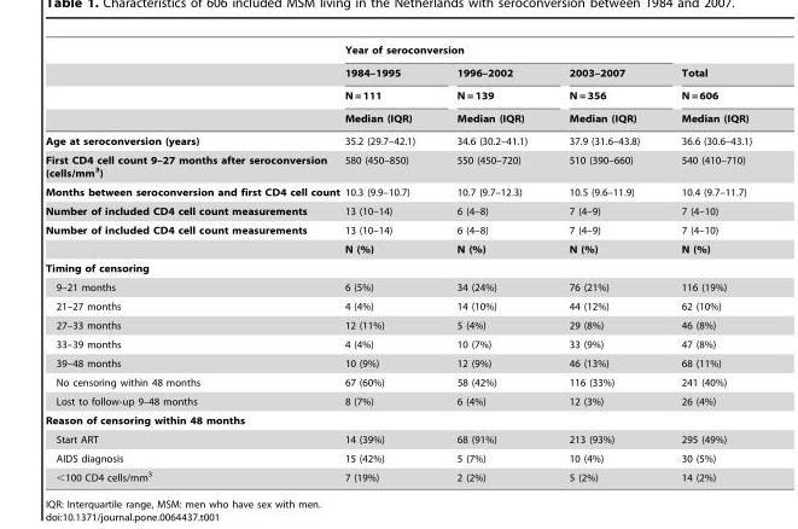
<table><thead><tr><td rowspan="4"></td><td colspan="3">Year of seroconversion</td><td rowspan="4">Total N = 606 Median (IQR)</td></tr><tr><td rowspan="3">1984–1995 N = 111 Median (IQR)</td><td rowspan="3">1996–2002 N = 139 Median (IQR)</td><td rowspan="3">2003–2007 N = 356 Median (IQR)</td></tr><tr></tr><tr></tr></thead><tbody><tr><td>Age at seroconversion (years)</td><td>35.2 (29.7–42.1)</td><td>34.6 (30.2–41.1)</td><td>37.9 (31.6–43.8)</td><td>36.6 (30.6–43.1)</td></tr><tr><td>First CD4 cell count 9–27 months after seroconversion (cells/mm<sup>3</sup>)</td><td>580 (450–850)</td><td>550 (450–720)</td><td>510 (390–660)</td><td>540 (410–710)</td></tr><tr><td>Months between seroconversion and first CD4 cell count</td><td>10.3 (9.9–10.7)</td><td>10.7 (9.7–12.3)</td><td>10.5 (9.6–11.9)</td><td>10.4 (9.7–11.7)</td></tr><tr><td>Number of included CD4 cell count measurements</td><td>13 (10–14)</td><td>6 (4–8)</td><td>7 (4–9)</td><td>7 (4–10)</td></tr><tr><td rowspan="2">Number of included CD4 cell count measurements</td><td>13 (10–14)</td><td>6 (4–8)</td><td>7 (4–9)</td><td>7 (4–10)</td></tr><tr><td>N (%)</td><td>N (%)</td><td>N (%)</td><td>N (%)</td></tr><tr><td colspan="5">Timing of censoring</td></tr><tr><td>9–21 months</td><td>6 (5%)</td><td>34 (24%)</td><td>76 (21%)</td><td>116 (19%)</td></tr><tr><td>21–27 months</td><td>4 (4%)</td><td>14 (10%)</td><td>44 (12%)</td><td>62 (10%)</td></tr><tr><td>27–33 months</td><td>12 (11%)</td><td>5 (4%)</td><td>29 (8%)</td><td>46 (8%)</td></tr><tr><td>33–39 months</td><td>4 (4%)</td><td>10 (7%)</td><td>33 (9%)</td><td>47 (8%)</td></tr><tr><td>39–48 months</td><td>10 (9%)</td><td>12 (9%)</td><td>46 (13%)</td><td>68 (11%)</td></tr><tr><td>No censoring within 48 months</td><td>67 (60%)</td><td>58 (42%)</td><td>116 (33%)</td><td>241 (40%)</td></tr><tr><td>Lost to follow-up 9–48 months</td><td>8 (7%)</td><td>6 (4%)</td><td>12 (3%)</td><td>26 (4%)</td></tr><tr><td colspan="5">Reason of censoring within 48 months</td></tr><tr><td>Start ART</td><td>14 (39%)</td><td>68 (91%)</td><td>213 (93%)</td><td>295 (49%)</td></tr><tr><td>AIDS diagnosis</td><td>15 (42%)</td><td>5 (7%)</td><td>10 (4%)</td><td>30 (5%)</td></tr><tr><td>&lt;100 CD4 cells/mm<sup>3</sup></td><td>7 (19%)</td><td>2 (2%)</td><td>5 (2%)</td><td>14 (2%)</td></tr></tbody></table>